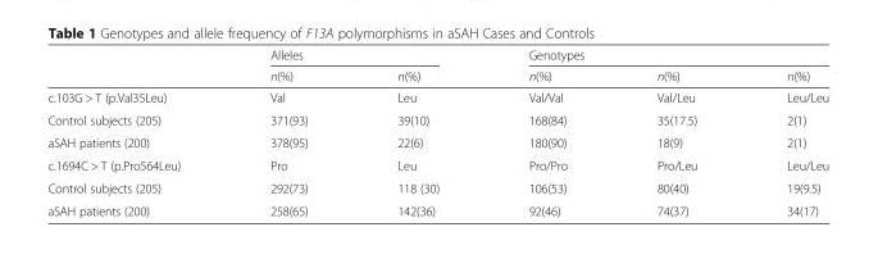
<table><thead><tr><td rowspan="2"></td><td colspan="2">Alleles</td><td colspan="3">Genotypes</td></tr><tr><td>n(%)</td><td>n(%)</td><td>n(%)</td><td>n(%)</td><td>n(%)</td></tr></thead><tbody><tr><td>c.103G &gt; T (p.Val35Leu)</td><td>Val</td><td>Leu</td><td>Val/Val</td><td>Val/Leu</td><td>Leu/Leu</td></tr><tr><td>Control subjects (205)</td><td>371(93)</td><td>39(10)</td><td>168(84)</td><td>35(17.5)</td><td>2(1)</td></tr><tr><td>aSAH patients (200)</td><td>378(95)</td><td>22(6)</td><td>180(90)</td><td>18(9)</td><td>2(1)</td></tr><tr><td>c.1694C &gt; T (p.Pro564Leu)</td><td>Pro</td><td>Leu</td><td>Pro/Pro</td><td>Pro/Leu</td><td>Leu/Leu</td></tr><tr><td>Control subjects (205)</td><td>292(73)</td><td>118 (30)</td><td>106(53)</td><td>80(40)</td><td>19(9.5)</td></tr><tr><td>aSAH patients (200)</td><td>258(65)</td><td>142(36)</td><td>92(46)</td><td>74(37)</td><td>34(17)</td></tr></tbody></table>